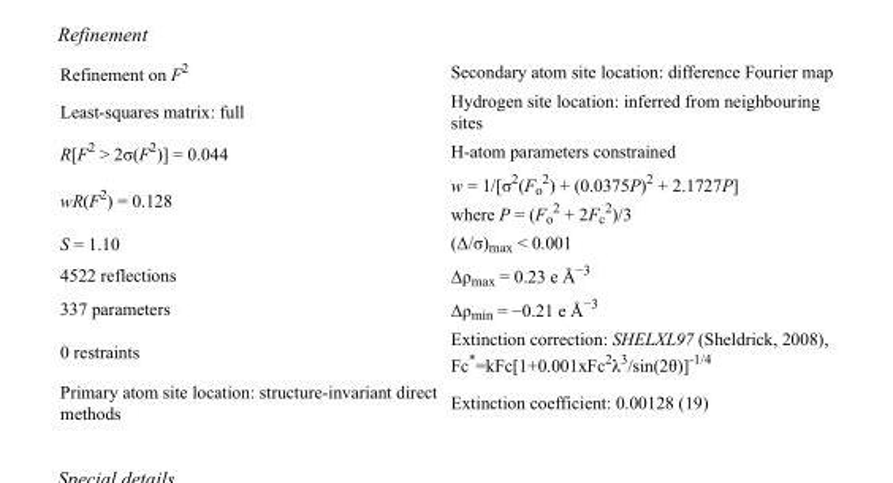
<table><tbody><tr><td>Refinement on F<sup>2</sup></td><td>Secondary atom site location: difference Fourier map</td></tr><tr><td>Least-squares matrix: full</td><td>Hydrogen site location: inferred from neighbouring sites</td></tr><tr><td>R[F<sup>2</sup> &gt; 2σ(F<sup>2</sup>)] = 0.044</td><td>H-atom parameters constrained</td></tr><tr><td>wR(F<sup>2</sup>) = 0.128</td><td>w = 1/[σ<sup>2</sup>(F<sub>o</sub> <sup>2</sup>) + (0.0375P)<sup>2</sup> + 2.1727P] where P = (F<sub>o</sub> <sup>2</sup> + 2F<sub>c</sub> <sup>2</sup>)/3</td></tr><tr><td>S = 1.10</td><td>(Δ/σ)<sub>max</sub> &lt; 0.001</td></tr><tr><td>4522 reflections</td><td>Δρ<sub>max</sub> = 0.23 e Å<sup>−3</sup></td></tr><tr><td>337 parameters</td><td>Δρ<sub>min</sub> = −0.21 e Å<sup>−3</sup></td></tr><tr><td>0 restraints</td><td>Extinction correction: SHELXL97 (Sheldrick, 2008), Fc*=kFc[1+0.001xFc<sup>2</sup>λ<sup>3</sup>/sin(2θ)]<sup>-1/4</sup></td></tr><tr><td>Primary atom site location: structure-invariant direct methods</td><td>Extinction coefficient: 0.00128 (19)</td></tr></tbody></table>